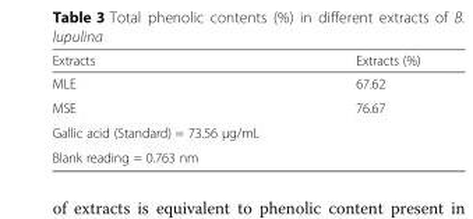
<table><thead><tr><td>Extracts</td><td>Extracts (%)</td></tr></thead><tbody><tr><td>MLE</td><td>67.62</td></tr><tr><td>MSE</td><td>76.67</td></tr><tr><td colspan="2">Gallic acid (Standard) = 73.56 μg/mL</td></tr><tr><td colspan="2">Blank reading = 0.763 nm</td></tr></tbody></table>